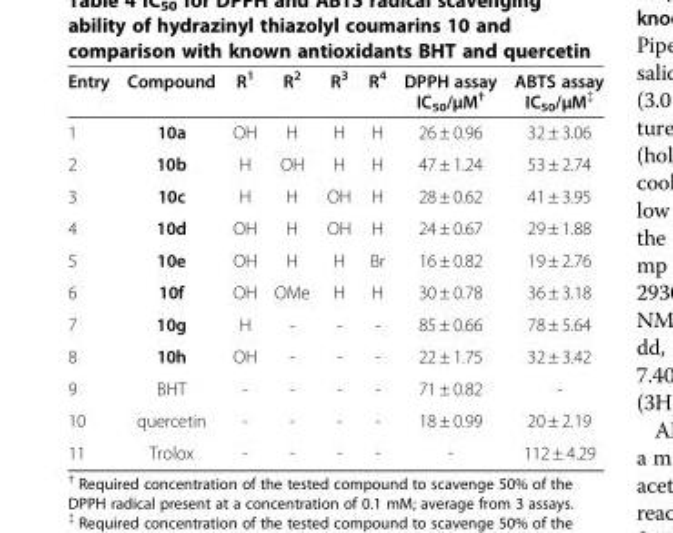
<table><thead><tr><td>Entry</td><td>Compound</td><td>R<sup>1</sup></td><td>R<sup>2</sup></td><td>R<sup>3</sup></td><td>R<sup>4</sup></td><td>DPPH assay IC<sub>50</sub>/μM<sup>†</sup></td><td>ABTS assay IC<sub>50</sub>/μM<sup>‡</sup></td></tr></thead><tbody><tr><td>1</td><td>10a</td><td>OH</td><td>H</td><td>H</td><td>H</td><td>26 ± 0.96</td><td>32 ± 3.06</td></tr><tr><td>2</td><td>10b</td><td>H</td><td>OH</td><td>H</td><td>H</td><td>47 ± 1.24</td><td>53 ± 2.74</td></tr><tr><td>3</td><td>10c</td><td>H</td><td>H</td><td>OH</td><td>H</td><td>28 ± 0.62</td><td>41 ± 3.95</td></tr><tr><td>4</td><td>10d</td><td>OH</td><td>H</td><td>OH</td><td>H</td><td>24 ± 0.67</td><td>29 ± 1.88</td></tr><tr><td>5</td><td>10e</td><td>OH</td><td>H</td><td>H</td><td>Br</td><td>16 ± 0.82</td><td>19 ± 2.76</td></tr><tr><td>6</td><td>10f</td><td>OH</td><td>OMe</td><td>H</td><td>H</td><td>30 ± 0.78</td><td>36 ± 3.18</td></tr><tr><td>7</td><td>10g</td><td>H</td><td>-</td><td>-</td><td>-</td><td>85 ± 0.66</td><td>78 ± 5.64</td></tr><tr><td>8</td><td>10h</td><td>OH</td><td>-</td><td>-</td><td>-</td><td>22 ± 1.75</td><td>32 ± 3.42</td></tr><tr><td>9</td><td>BHT</td><td>-</td><td>-</td><td>-</td><td>-</td><td>71 ± 0.82</td><td>-</td></tr><tr><td>10</td><td>quercetin</td><td>-</td><td>-</td><td>-</td><td>-</td><td>18 ± 0.99</td><td>20 ± 2.19</td></tr><tr><td>11</td><td>Trolox</td><td>-</td><td>-</td><td>-</td><td>-</td><td>-</td><td>112 ± 4.29</td></tr></tbody></table>